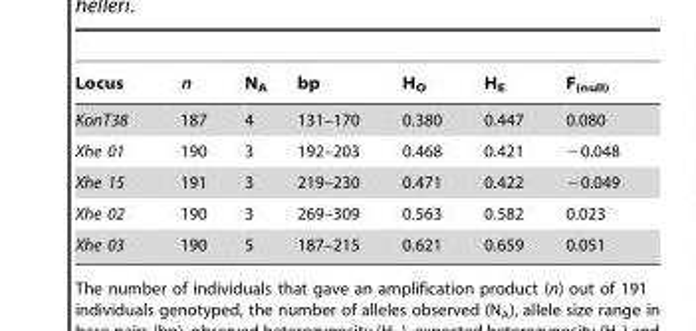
<table><thead><tr><td>Locus</td><td>n</td><td>N<sub>A</sub></td><td>bp</td><td>H<sub>O</sub></td><td>H<sub>E</sub></td><td>F<sub>(null)</sub></td></tr></thead><tbody><tr><td>KonT38</td><td>187</td><td>4</td><td>131–170</td><td>0.380</td><td>0.447</td><td>0.080</td></tr><tr><td>Xhe 01</td><td>190</td><td>3</td><td>192–203</td><td>0.468</td><td>0.421</td><td>−0.048</td></tr><tr><td>Xhe 15</td><td>191</td><td>3</td><td>219–230</td><td>0.471</td><td>0.422</td><td>−0.049</td></tr><tr><td>Xhe 02</td><td>190</td><td>3</td><td>269–309</td><td>0.563</td><td>0.582</td><td>0.023</td></tr><tr><td>Xhe 03</td><td>190</td><td>5</td><td>187–215</td><td>0.621</td><td>0.659</td><td>0.051</td></tr></tbody></table>